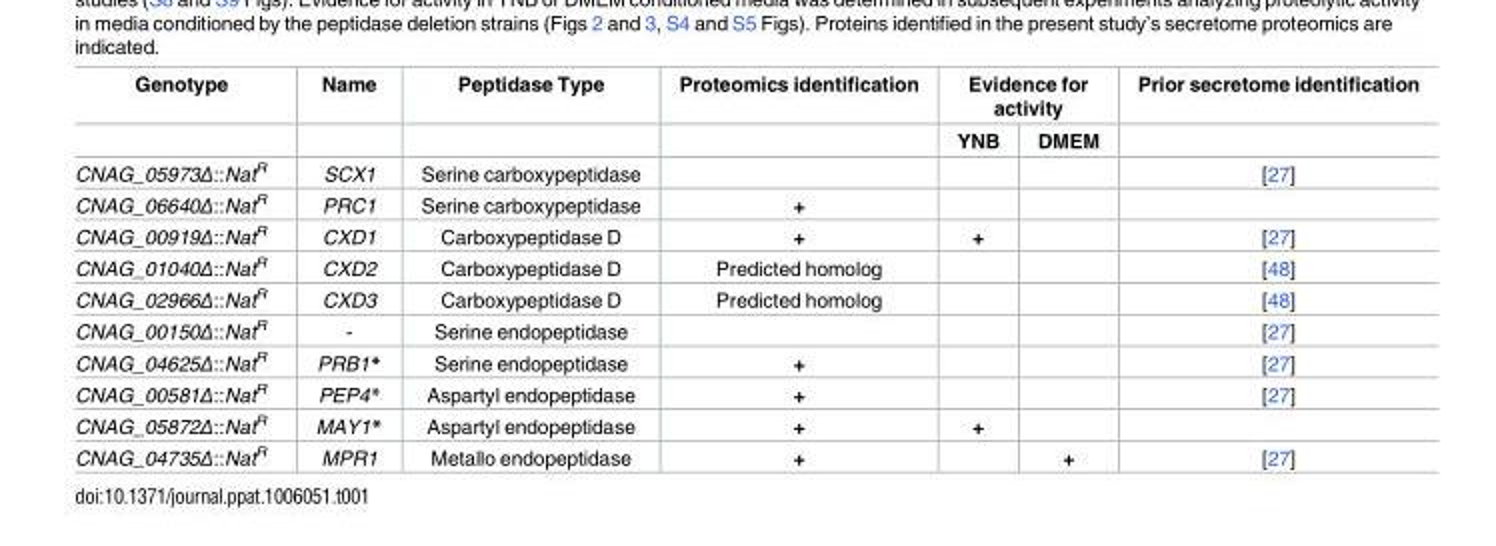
<table><thead><tr><td rowspan="2">Genotype</td><td rowspan="2">Name</td><td rowspan="2">Peptidase Type</td><td rowspan="2">Proteomics identification</td><td colspan="2">Evidence for activity</td><td rowspan="2">Prior secretome identification</td></tr><tr><td>YNB</td><td>DMEM</td></tr></thead><tbody><tr><td>CNAG_05973Δ::Nat<sup>R</sup></td><td>SCX1</td><td>Serine carboxypeptidase</td><td></td><td></td><td></td><td>[27]</td></tr><tr><td>CNAG_06640Δ::Nat<sup>R</sup></td><td>PRC1</td><td>Serine carboxypeptidase</td><td>+</td><td></td><td></td><td></td></tr><tr><td>CNAG_00919Δ::Nat<sup>R</sup></td><td>CXD1</td><td>Carboxypeptidase D</td><td>+</td><td>+</td><td></td><td>[27]</td></tr><tr><td>CNAG_01040Δ::Nat<sup>R</sup></td><td>CXD2</td><td>Carboxypeptidase D</td><td>Predicted homolog</td><td></td><td></td><td>[48]</td></tr><tr><td>CNAG_02966Δ::Nat<sup>R</sup></td><td>CXD3</td><td>Carboxypeptidase D</td><td>Predicted homolog</td><td></td><td></td><td>[48]</td></tr><tr><td>CNAG_00150Δ::Nat<sup>R</sup></td><td>-</td><td>Serine endopeptidase</td><td></td><td></td><td></td><td>[27]</td></tr><tr><td>CNAG_04625Δ::Nat<sup>R</sup></td><td>PRB1*</td><td>Serine endopeptidase</td><td>+</td><td></td><td></td><td>[27]</td></tr><tr><td>CNAG_00581Δ::Nat<sup>R</sup></td><td>PEP4*</td><td>Aspartyl endopeptidase</td><td>+</td><td></td><td></td><td>[27]</td></tr><tr><td>CNAG_05872Δ::Nat<sup>R</sup></td><td>MAY1*</td><td>Aspartyl endopeptidase</td><td>+</td><td>+</td><td></td><td></td></tr><tr><td>CNAG_04735Δ::Nat<sup>R</sup></td><td>MPR1</td><td>Metallo endopeptidase</td><td>+</td><td></td><td>+</td><td>[27]</td></tr></tbody></table>